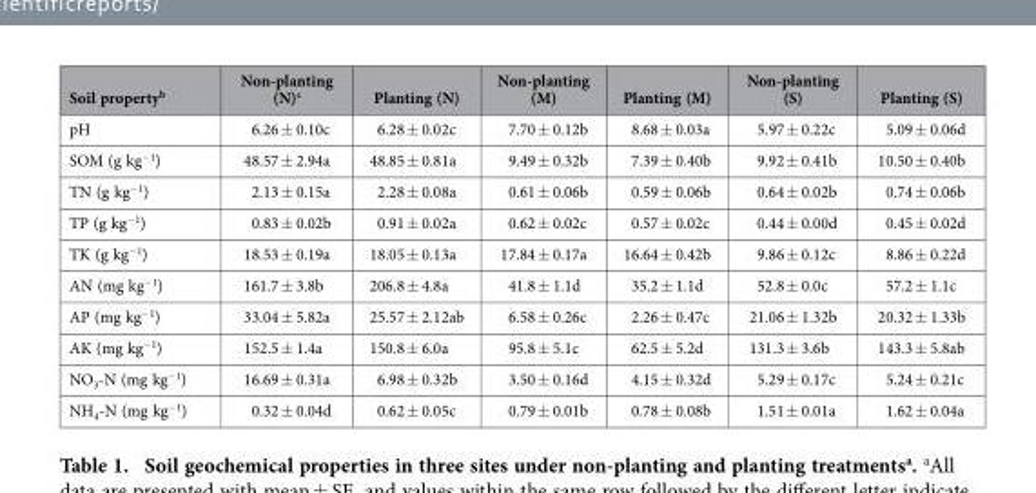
<table><thead><tr><td>Soil property<sup>b</sup></td><td>Non-planting (N)<sup>c</sup></td><td>Planting (N)</td><td>Non-planting (M)</td><td>Planting (M)</td><td>Non-planting (S)</td><td>Planting (S)</td></tr></thead><tbody><tr><td>pH</td><td>6.26 ± 0.10c</td><td>6.28 ± 0.02c</td><td>7.70 ± 0.12b</td><td>8.68 ± 0.03a</td><td>5.97 ± 0.22c</td><td>5.09 ± 0.06d</td></tr><tr><td>SOM (g kg<sup>−1</sup>)</td><td>48.57 ± 2.94a</td><td>48.85 ± 0.81a</td><td>9.49 ± 0.32b</td><td>7.39 ± 0.40b</td><td>9.92 ± 0.41b</td><td>10.50 ± 0.40b</td></tr><tr><td>TN (g kg<sup>−1</sup>)</td><td>2.13 ± 0.15a</td><td>2.28 ± 0.08a</td><td>0.61 ± 0.06b</td><td>0.59 ± 0.06b</td><td>0.64 ± 0.02b</td><td>0.74 ± 0.06b</td></tr><tr><td>TP (g kg<sup>−1</sup>)</td><td>0.83 ± 0.02b</td><td>0.91 ± 0.02a</td><td>0.62 ± 0.02c</td><td>0.57 ± 0.02c</td><td>0.44 ± 0.00d</td><td>0.45 ± 0.02d</td></tr><tr><td>TK (g kg<sup>−1</sup>)</td><td>18.53 ± 0.19a</td><td>18.05 ± 0.13a</td><td>17.84 ± 0.17a</td><td>16.64 ± 0.42b</td><td>9.86 ± 0.12c</td><td>8.86 ± 0.22d</td></tr><tr><td>AN (mg kg<sup>−1</sup>)</td><td>161.7 ± 3.8b</td><td>206.8 ± 4.8a</td><td>41.8 ± 1.1d</td><td>35.2 ± 1.1d</td><td>52.8 ± 0.0c</td><td>57.2 ± 1.1c</td></tr><tr><td>AP (mg kg<sup>−1</sup>)</td><td>33.04 ± 5.82a</td><td>25.57 ± 2.12ab</td><td>6.58 ± 0.26c</td><td>2.26 ± 0.47c</td><td>21.06 ± 1.32b</td><td>20.32 ± 1.33b</td></tr><tr><td>AK (mg kg<sup>−1</sup>)</td><td>152.5 ± 1.4a</td><td>150.8 ± 6.0a</td><td>95.8 ± 5.1c</td><td>62.5 ± 5.2d</td><td>131.3 ± 3.6b</td><td>143.3 ± 5.8ab</td></tr><tr><td>NO<sub>3</sub>-N (mg kg<sup>−1</sup>)</td><td>16.69 ± 0.31a</td><td>6.98 ± 0.32b</td><td>3.50 ± 0.16d</td><td>4.15 ± 0.32d</td><td>5.29 ± 0.17c</td><td>5.24 ± 0.21c</td></tr><tr><td>NH<sub>4</sub>-N (mg kg<sup>−1</sup>)</td><td>0.32 ± 0.04d</td><td>0.62 ± 0.05c</td><td>0.79 ± 0.01b</td><td>0.78 ± 0.08b</td><td>1.51 ± 0.01a</td><td>1.62 ± 0.04a</td></tr></tbody></table>